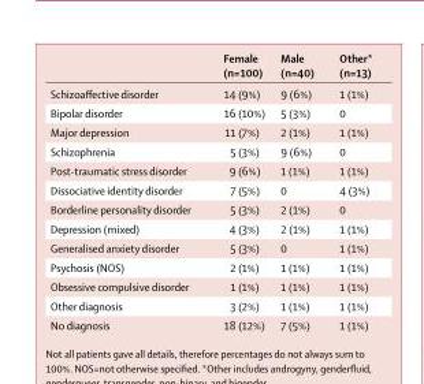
<table><thead><tr><td></td><td>Female (n=100)</td><td>Male (n=40)</td><td>Other* (n=13)</td></tr></thead><tbody><tr><td>Schizoaff ective disorder</td><td>14 (9%)</td><td>9 (6%)</td><td>1 (1%)</td></tr><tr><td>Bipolar disorder</td><td>16 (10%)</td><td>5 (3%)</td><td>0</td></tr><tr><td>Major depression</td><td>11 (7%)</td><td>2 (1%)</td><td>1 (1%)</td></tr><tr><td>Schizophrenia</td><td>5 (3%)</td><td>9 (6%)</td><td>0</td></tr><tr><td>Post-traumatic stress disorder</td><td>9 (6%)</td><td>1 (1%)</td><td>1 (1%)</td></tr><tr><td>Dissociative identity disorder</td><td>7 (5%)</td><td>0</td><td>4 (3%)</td></tr><tr><td>Borderline personality disorder</td><td>5 (3%)</td><td>2 (1%)</td><td>0</td></tr><tr><td>Depression (mixed)</td><td>4 (3%)</td><td>2 (1%)</td><td>1 (1%)</td></tr><tr><td>Generalised anxiety disorder</td><td>5 (3%)</td><td>0</td><td>1 (1%)</td></tr><tr><td>Psychosis (NOS)</td><td>2 (1%)</td><td>1 (1%)</td><td>1 (1%)</td></tr><tr><td>Obsessive compulsive disorder</td><td>1 (1%)</td><td>1 (1%)</td><td>1 (1%)</td></tr><tr><td>Other diagnosis</td><td>3 (2%)</td><td>1 (1%)</td><td>1 (1%)</td></tr><tr><td>No diagnosis</td><td>18 (12%)</td><td>7 (5%)</td><td>1 (1%)</td></tr></tbody></table>